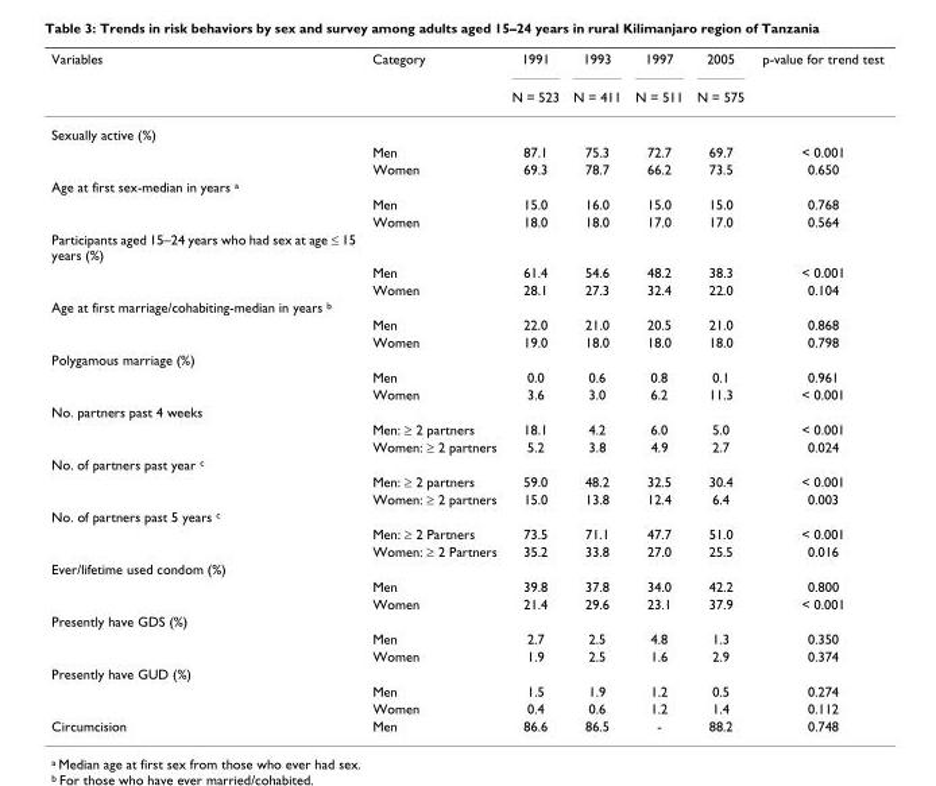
<table><thead><tr><td rowspan="2">Variables</td><td rowspan="2">Category</td><td rowspan="2">1991 N = 523</td><td rowspan="2">1993 N = 411</td><td rowspan="2">1997 N = 511</td><td rowspan="2">2005 N = 575</td><td rowspan="2">p-value for trend test</td></tr><tr></tr></thead><tbody><tr><td colspan="7">Sexually active (%)</td></tr><tr><td></td><td>Men</td><td>87.1</td><td>75.3</td><td>72.7</td><td>69.7</td><td>&lt; 0.001</td></tr><tr><td></td><td>Women</td><td>69.3</td><td>78.7</td><td>66.2</td><td>73.5</td><td>0.650</td></tr><tr><td colspan="7">Age at first sex-median in years <sup>a</sup></td></tr><tr><td></td><td>Men</td><td>15.0</td><td>16.0</td><td>15.0</td><td>15.0</td><td>0.768</td></tr><tr><td></td><td>Women</td><td>18.0</td><td>18.0</td><td>17.0</td><td>17.0</td><td>0.564</td></tr><tr><td colspan="7">Participants aged 15–24 years who had sex at age ≤ 15 years (%)</td></tr><tr><td></td><td>Men</td><td>61.4</td><td>54.6</td><td>48.2</td><td>38.3</td><td>&lt; 0.001</td></tr><tr><td></td><td>Women</td><td>28.1</td><td>27.3</td><td>32.4</td><td>22.0</td><td>0.104</td></tr><tr><td colspan="7">Age at first marriage/cohabiting-median in years <sup>b</sup></td></tr><tr><td></td><td>Men</td><td>22.0</td><td>21.0</td><td>20.5</td><td>21.0</td><td>0.868</td></tr><tr><td></td><td>Women</td><td>19.0</td><td>18.0</td><td>18.0</td><td>18.0</td><td>0.798</td></tr><tr><td colspan="7">Polygamous marriage (%)</td></tr><tr><td></td><td>Men</td><td>0.0</td><td>0.6</td><td>0.8</td><td>0.1</td><td>0.961</td></tr><tr><td></td><td>Women</td><td>3.6</td><td>3.0</td><td>6.2</td><td>11.3</td><td>&lt; 0.001</td></tr><tr><td colspan="7">No. partners past 4 weeks</td></tr><tr><td></td><td>Men: ≥ 2 partners</td><td>18.1</td><td>4.2</td><td>6.0</td><td>5.0</td><td>&lt; 0.001</td></tr><tr><td></td><td>Women: ≥ 2 partners</td><td>5.2</td><td>3.8</td><td>4.9</td><td>2.7</td><td>0.024</td></tr><tr><td colspan="7">No. of partners past year <sup>c</sup></td></tr><tr><td></td><td>Men: ≥ 2 partners</td><td>59.0</td><td>48.2</td><td>32.5</td><td>30.4</td><td>&lt; 0.001</td></tr><tr><td></td><td>Women: ≥ 2 partners</td><td>15.0</td><td>13.8</td><td>12.4</td><td>6.4</td><td>0.003</td></tr><tr><td colspan="7">No. of partners past 5 years <sup>c</sup></td></tr><tr><td></td><td>Men: ≥ 2 Partners</td><td>73.5</td><td>71.1</td><td>47.7</td><td>51.0</td><td>&lt; 0.001</td></tr><tr><td></td><td>Women: ≥ 2 Partners</td><td>35.2</td><td>33.8</td><td>27.0</td><td>25.5</td><td>0.016</td></tr><tr><td colspan="7">Ever/lifetime used condom (%)</td></tr><tr><td></td><td>Men</td><td>39.8</td><td>37.8</td><td>34.0</td><td>42.2</td><td>0.800</td></tr><tr><td></td><td>Women</td><td>21.4</td><td>29.6</td><td>23.1</td><td>37.9</td><td>&lt; 0.001</td></tr><tr><td colspan="7">Presently have GDS (%)</td></tr><tr><td></td><td>Men</td><td>2.7</td><td>2.5</td><td>4.8</td><td>1.3</td><td>0.350</td></tr><tr><td></td><td>Women</td><td>1.9</td><td>2.5</td><td>1.6</td><td>2.9</td><td>0.374</td></tr><tr><td colspan="7">Presently have GUD (%)</td></tr><tr><td></td><td>Men</td><td>1.5</td><td>1.9</td><td>1.2</td><td>0.5</td><td>0.274</td></tr><tr><td></td><td>Women</td><td>0.4</td><td>0.6</td><td>1.2</td><td>1.4</td><td>0.112</td></tr><tr><td>Circumcision</td><td>Men</td><td>86.6</td><td>86.5</td><td>-</td><td>88.2</td><td>0.748</td></tr></tbody></table>